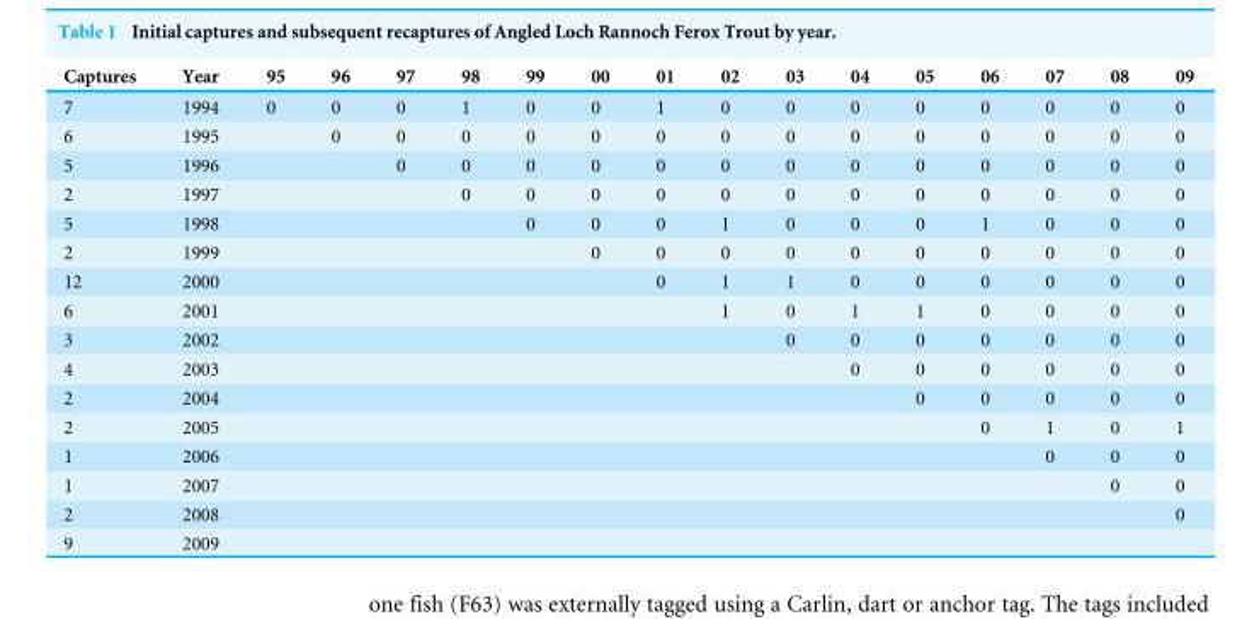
<table><thead><tr><td>Captures</td><td>Year</td><td>95</td><td>96</td><td>97</td><td>98</td><td>99</td><td>00</td><td>01</td><td>02</td><td>03</td><td>04</td><td>05</td><td>06</td><td>07</td><td>08</td><td>09</td></tr></thead><tbody><tr><td>7</td><td>1994</td><td>0</td><td>0</td><td>0</td><td>1</td><td>0</td><td>0</td><td>1</td><td>0</td><td>0</td><td>0</td><td>0</td><td>0</td><td>0</td><td>0</td><td>0</td></tr><tr><td>6</td><td>1995</td><td></td><td>0</td><td>0</td><td>0</td><td>0</td><td>0</td><td>0</td><td>0</td><td>0</td><td>0</td><td>0</td><td>0</td><td>0</td><td>0</td><td>0</td></tr><tr><td>5</td><td>1996</td><td></td><td></td><td>0</td><td>0</td><td>0</td><td>0</td><td>0</td><td>0</td><td>0</td><td>0</td><td>0</td><td>0</td><td>0</td><td>0</td><td>0</td></tr><tr><td>2</td><td>1997</td><td></td><td></td><td></td><td>0</td><td>0</td><td>0</td><td>0</td><td>0</td><td>0</td><td>0</td><td>0</td><td>0</td><td>0</td><td>0</td><td>0</td></tr><tr><td>5</td><td>1998</td><td></td><td></td><td></td><td></td><td>0</td><td>0</td><td>0</td><td>1</td><td>0</td><td>0</td><td>0</td><td>1</td><td>0</td><td>0</td><td>0</td></tr><tr><td>2</td><td>1999</td><td></td><td></td><td></td><td></td><td></td><td>0</td><td>0</td><td>0</td><td>0</td><td>0</td><td>0</td><td>0</td><td>0</td><td>0</td><td>0</td></tr><tr><td>12</td><td>2000</td><td></td><td></td><td></td><td></td><td></td><td></td><td>0</td><td>1</td><td>1</td><td>0</td><td>0</td><td>0</td><td>0</td><td>0</td><td>0</td></tr><tr><td>6</td><td>2001</td><td></td><td></td><td></td><td></td><td></td><td></td><td></td><td>1</td><td>0</td><td>1</td><td>1</td><td>0</td><td>0</td><td>0</td><td>0</td></tr><tr><td>3</td><td>2002</td><td></td><td></td><td></td><td></td><td></td><td></td><td></td><td></td><td>0</td><td>0</td><td>0</td><td>0</td><td>0</td><td>0</td><td>0</td></tr><tr><td>4</td><td>2003</td><td></td><td></td><td></td><td></td><td></td><td></td><td></td><td></td><td></td><td>0</td><td>0</td><td>0</td><td>0</td><td>0</td><td>0</td></tr><tr><td>2</td><td>2004</td><td></td><td></td><td></td><td></td><td></td><td></td><td></td><td></td><td></td><td></td><td>0</td><td>0</td><td>0</td><td>0</td><td>0</td></tr><tr><td>2</td><td>2005</td><td></td><td></td><td></td><td></td><td></td><td></td><td></td><td></td><td></td><td></td><td></td><td>0</td><td>1</td><td>0</td><td>1</td></tr><tr><td>1</td><td>2006</td><td></td><td></td><td></td><td></td><td></td><td></td><td></td><td></td><td></td><td></td><td></td><td></td><td>0</td><td>0</td><td>0</td></tr><tr><td>1</td><td>2007</td><td></td><td></td><td></td><td></td><td></td><td></td><td></td><td></td><td></td><td></td><td></td><td></td><td></td><td>0</td><td>0</td></tr><tr><td>2</td><td>2008</td><td></td><td></td><td></td><td></td><td></td><td></td><td></td><td></td><td></td><td></td><td></td><td></td><td></td><td></td><td>0</td></tr><tr><td>9</td><td>2009</td><td></td><td></td><td></td><td></td><td></td><td></td><td></td><td></td><td></td><td></td><td></td><td></td><td></td><td></td><td></td></tr></tbody></table>